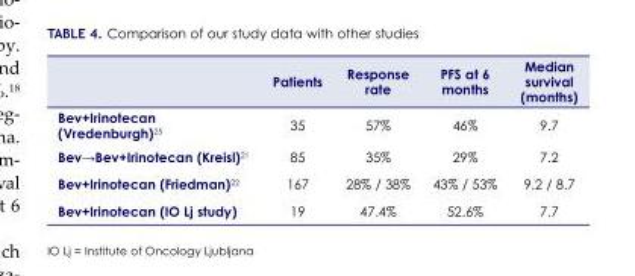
<table><thead><tr><td></td><td>Patients</td><td>Response rate</td><td>PFS at 6 months</td><td>Median survival (months)</td></tr></thead><tbody><tr><td>Bev+Irinotecan (Vredenburgh)<sup>25</sup></td><td>35</td><td>57%</td><td>46%</td><td>9.7</td></tr><tr><td>Bev→Bev+Irinotecan (Kreisl)<sup>21</sup></td><td>85</td><td>35%</td><td>29%</td><td>7.2</td></tr><tr><td>Bev+Irinotecan (Friedman)<sup>22</sup></td><td>167</td><td>28% / 38%</td><td>43% / 53%</td><td>9.2 / 8.7</td></tr><tr><td>Bev+Irinotecan (IO Lj study)</td><td>19</td><td>47.4%</td><td>52.6%</td><td>7.7</td></tr></tbody></table>